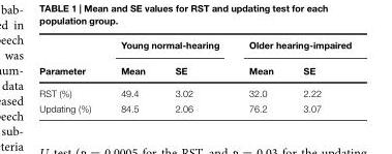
<table><thead><tr><td rowspan="2">Parameter</td><td colspan="2">Young normal-hearing</td><td colspan="2">Older hearing-impaired</td></tr><tr><td>Mean</td><td>SE</td><td>Mean</td><td>SE</td></tr></thead><tbody><tr><td>RST (%)</td><td>49.4</td><td>3.02</td><td>32.0</td><td>2.22</td></tr><tr><td>Updating (%)</td><td>84.5</td><td>2.06</td><td>76.2</td><td>3.07</td></tr></tbody></table>